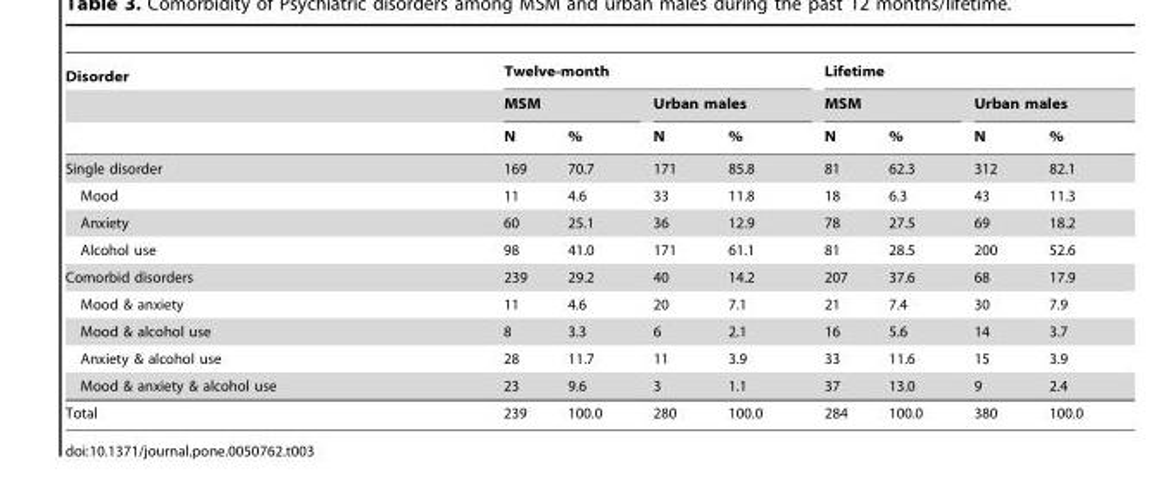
<table><thead><tr><td rowspan="3">Disorder</td><td colspan="4">Twelve-month</td><td colspan="4">Lifetime</td></tr><tr><td colspan="2">MSM</td><td colspan="2">Urban males</td><td colspan="2">MSM</td><td colspan="2">Urban males</td></tr><tr><td>N</td><td>%</td><td>N</td><td>%</td><td>N</td><td>%</td><td>N</td><td>%</td></tr></thead><tbody><tr><td>Single disorder</td><td>169</td><td>70.7</td><td>171</td><td>85.8</td><td>81</td><td>62.3</td><td>312</td><td>82.1</td></tr><tr><td>Mood</td><td>11</td><td>4.6</td><td>33</td><td>11.8</td><td>18</td><td>6.3</td><td>43</td><td>11.3</td></tr><tr><td>Anxiety</td><td>60</td><td>25.1</td><td>36</td><td>12.9</td><td>78</td><td>27.5</td><td>69</td><td>18.2</td></tr><tr><td>Alcohol use</td><td>98</td><td>41.0</td><td>171</td><td>61.1</td><td>81</td><td>28.5</td><td>200</td><td>52.6</td></tr><tr><td>Comorbid disorders</td><td>239</td><td>29.2</td><td>40</td><td>14.2</td><td>207</td><td>37.6</td><td>68</td><td>17.9</td></tr><tr><td>Mood &amp; anxiety</td><td>11</td><td>4.6</td><td>20</td><td>7.1</td><td>21</td><td>7.4</td><td>30</td><td>7.9</td></tr><tr><td>Mood &amp; alcohol use</td><td>8</td><td>3.3</td><td>6</td><td>2.1</td><td>16</td><td>5.6</td><td>14</td><td>3.7</td></tr><tr><td>Anxiety &amp; alcohol use</td><td>28</td><td>11.7</td><td>11</td><td>3.9</td><td>33</td><td>11.6</td><td>15</td><td>3.9</td></tr><tr><td>Mood &amp; anxiety &amp; alcohol use</td><td>23</td><td>9.6</td><td>3</td><td>1.1</td><td>37</td><td>13.0</td><td>9</td><td>2.4</td></tr><tr><td>Total</td><td>239</td><td>100.0</td><td>280</td><td>100.0</td><td>284</td><td>100.0</td><td>380</td><td>100.0</td></tr></tbody></table>